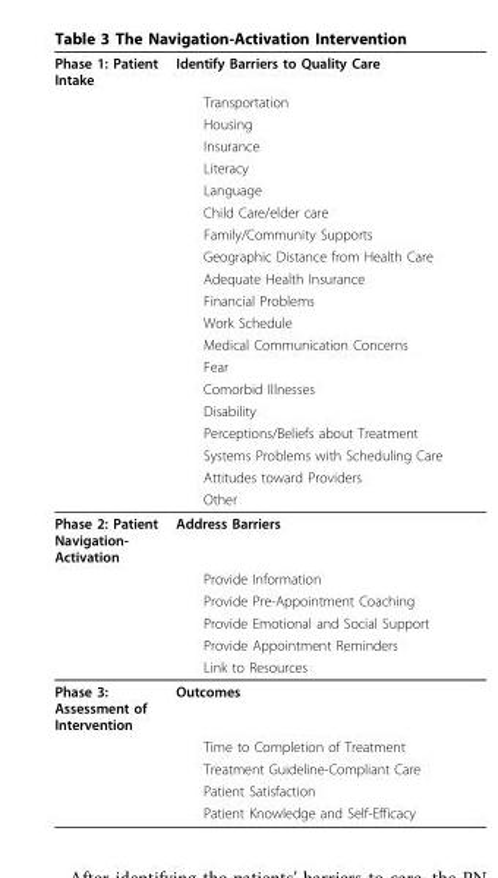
<table><thead><tr><td rowspan="20">Phase 1: Patient Intake</td><td rowspan="20">Identify Barriers to Quality Care Transportation Housing Insurance Literacy Language Child Care/elder care Family/Community Supports Geographic Distance from Health Care Adequate Health Insurance Financial Problems Work Schedule Medical Communication Concerns Fear Comorbid Illnesses Disability Perceptions/Beliefs about Treatment Systems Problems with Scheduling Care Attitudes toward Providers Other</td></tr><tr></tr><tr></tr><tr></tr><tr></tr><tr></tr><tr></tr><tr></tr><tr></tr><tr></tr><tr></tr><tr></tr><tr></tr><tr></tr><tr></tr><tr></tr><tr></tr><tr></tr><tr></tr><tr></tr></thead><tbody><tr><td rowspan="6">Phase 2: Patient Navigation- Activation</td><td>Address Barriers</td></tr><tr><td>Provide Information</td></tr><tr><td>Provide Pre-Appointment Coaching</td></tr><tr><td>Provide Emotional and Social Support</td></tr><tr><td>Provide Appointment Reminders</td></tr><tr><td>Link to Resources</td></tr><tr><td rowspan="5">Phase 3: Assessment of Intervention</td><td>Outcomes</td></tr><tr><td>Time to Completion of Treatment</td></tr><tr><td>Treatment Guideline-Compliant Care</td></tr><tr><td>Patient Satisfaction</td></tr><tr><td>Patient Knowledge and Self-Efficacy</td></tr></tbody></table>